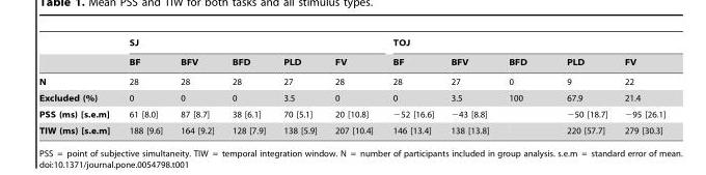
<table><thead><tr><td rowspan="2"></td><td colspan="5">SJ</td><td colspan="5">TOJ</td></tr><tr><td>BF</td><td>BFV</td><td>BFD</td><td>PLD</td><td>FV</td><td>BF</td><td>BFV</td><td>BFD</td><td>PLD</td><td>FV</td></tr></thead><tbody><tr><td>N</td><td>28</td><td>28</td><td>28</td><td>27</td><td>28</td><td>28</td><td>27</td><td>0</td><td>9</td><td>22</td></tr><tr><td>Excluded (%)</td><td>0</td><td>0</td><td>0</td><td>3.5</td><td>0</td><td>0</td><td>3.5</td><td>100</td><td>67.9</td><td>21.4</td></tr><tr><td>PSS (ms) [s.e.m]</td><td>61 [8.0]</td><td>87 [8.7]</td><td>38 [6.1]</td><td>70 [5.1]</td><td>20 [10.8]</td><td>−52 [16.6]</td><td>−43 [8.8]</td><td></td><td>−50 [18.7]</td><td>−95 [26.1]</td></tr><tr><td>TIW (ms) [s.e.m]</td><td>188 [9.6]</td><td>164 [9.2]</td><td>128 [7.9]</td><td>138 [5.9]</td><td>207 [10.4]</td><td>146 [13.4]</td><td>138 [13.8]</td><td></td><td>220 [57.7]</td><td>279 [30.3]</td></tr></tbody></table>